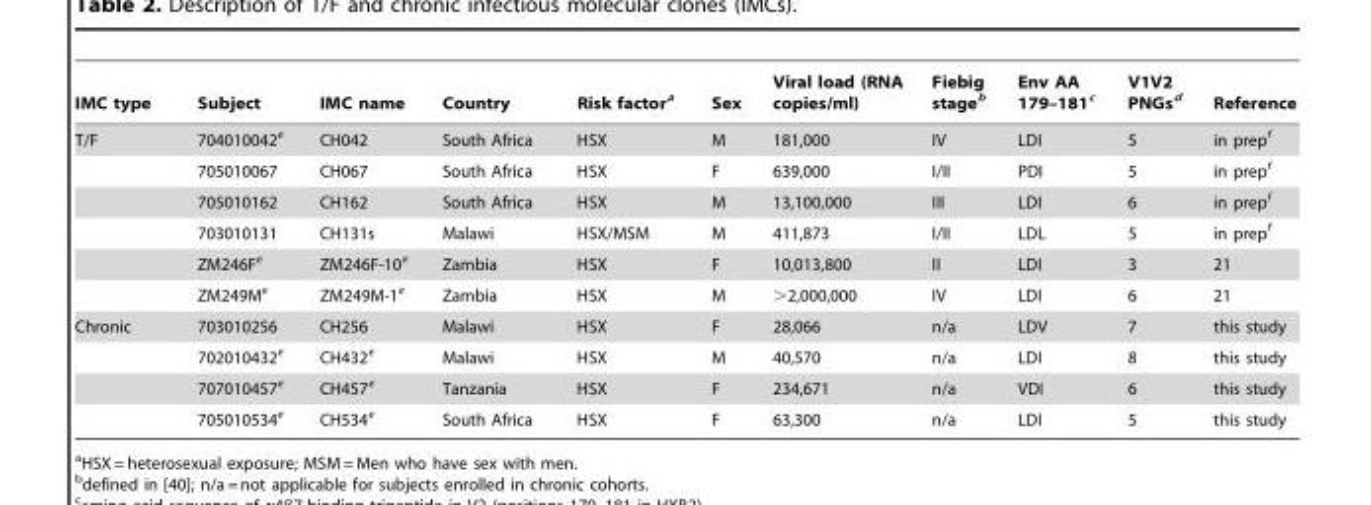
<table><thead><tr><td>IMC type</td><td>Subject</td><td>IMC name</td><td>Country</td><td>Risk factor<sup>a</sup></td><td>Sex</td><td>Viral load (RNA copies/ml)</td><td>Fiebig stage<sup>b</sup></td><td>Env AA 179–181<sup>c</sup></td><td>V1V2 PNGs<sup>d</sup></td><td>Reference</td></tr></thead><tbody><tr><td rowspan="6">T/F</td><td>704010042<sup>e</sup></td><td>CH042</td><td>South Africa</td><td>HSX</td><td>M</td><td>181,000</td><td>IV</td><td>LDI</td><td>5</td><td>in prep<sup>f</sup></td></tr><tr><td>705010067</td><td>CH067</td><td>South Africa</td><td>HSX</td><td>F</td><td>639,000</td><td>I/II</td><td>PDI</td><td>5</td><td>in prep<sup>f</sup></td></tr><tr><td>705010162</td><td>CH162</td><td>South Africa</td><td>HSX</td><td>M</td><td>13,100,000</td><td>III</td><td>LDI</td><td>6</td><td>in prep<sup>f</sup></td></tr><tr><td>703010131</td><td>CH131s</td><td>Malawi</td><td>HSX/MSM</td><td>M</td><td>411,873</td><td>I/II</td><td>LDL</td><td>5</td><td>in prep<sup>f</sup></td></tr><tr><td>ZM246F<sup>e</sup></td><td>ZM246F-10<sup>e</sup></td><td>Zambia</td><td>HSX</td><td>F</td><td>10,013,800</td><td>II</td><td>LDI</td><td>3</td><td>21</td></tr><tr><td>ZM249M<sup>e</sup></td><td>ZM249M-1<sup>e</sup></td><td>Zambia</td><td>HSX</td><td>M</td><td>&gt;2,000,000</td><td>IV</td><td>LDI</td><td>6</td><td>21</td></tr><tr><td rowspan="4">Chronic</td><td>703010256</td><td>CH256</td><td>Malawi</td><td>HSX</td><td>F</td><td>28,066</td><td>n/a</td><td>LDV</td><td>7</td><td>this study</td></tr><tr><td>702010432<sup>e</sup></td><td>CH432<sup>e</sup></td><td>Malawi</td><td>HSX</td><td>M</td><td>40,570</td><td>n/a</td><td>LDI</td><td>8</td><td>this study</td></tr><tr><td>707010457<sup>e</sup></td><td>CH457<sup>e</sup></td><td>Tanzania</td><td>HSX</td><td>F</td><td>234,671</td><td>n/a</td><td>VDI</td><td>6</td><td>this study</td></tr><tr><td>705010534<sup>e</sup></td><td>CH534<sup>e</sup></td><td>South Africa</td><td>HSX</td><td>F</td><td>63,300</td><td>n/a</td><td>LDI</td><td>5</td><td>this study</td></tr></tbody></table>